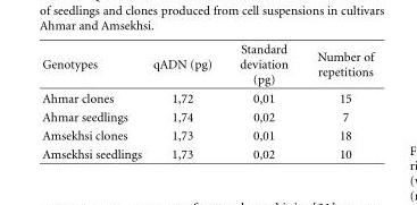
<table><thead><tr><td>Genotypes</td><td>qADN (pg)</td><td>Standard deviation (pg)</td><td>Number of repetitions</td></tr></thead><tbody><tr><td>Ahmar clones</td><td>1,72</td><td>0,01</td><td>15</td></tr><tr><td>Ahmar seedlings</td><td>1,74</td><td>0,02</td><td>7</td></tr><tr><td>Amsekhsi clones</td><td>1,73</td><td>0,01</td><td>18</td></tr><tr><td>Amsekhsi seedlings</td><td>1,73</td><td>0,02</td><td>10</td></tr></tbody></table>